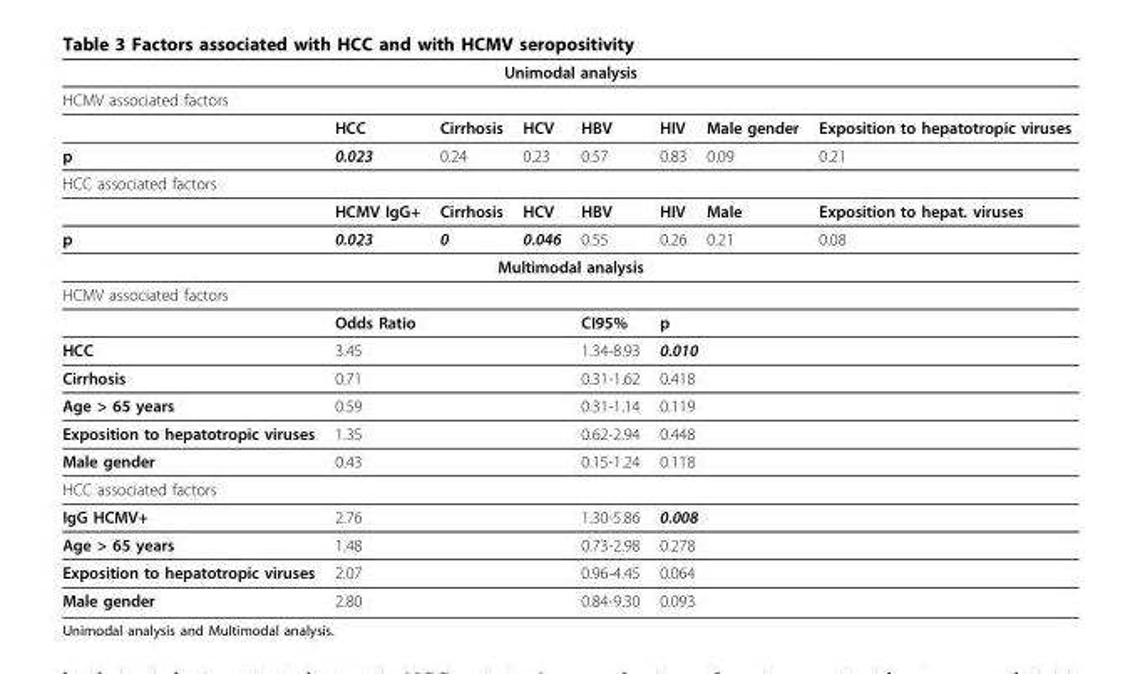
<table><thead><tr><td rowspan="2" colspan="8">Unimodal analysis HCMV associated factors</td></tr><tr></tr><tr><td></td><td>HCC</td><td>Cirrhosis</td><td>HCV</td><td>HBV</td><td>HIV</td><td>Male gender</td><td>Exposition to hepatotropic viruses</td></tr></thead><tbody><tr><td>p</td><td>0.023</td><td>0.24</td><td>0.23</td><td>0.57</td><td>0.83</td><td>0.09</td><td>0.21</td></tr><tr><td colspan="8">HCC associated factors</td></tr><tr><td></td><td>HCMV IgG+</td><td>Cirrhosis</td><td>HCV</td><td>HBV</td><td>HIV</td><td>Male</td><td>Exposition to hepat. viruses</td></tr><tr><td>p</td><td>0.023</td><td>0</td><td>0.046</td><td>0.55</td><td>0.26</td><td>0.21</td><td>0.08</td></tr><tr><td colspan="8">Multimodal analysis</td></tr><tr><td colspan="8">HCMV associated factors</td></tr><tr><td></td><td colspan="3">Odds Ratio</td><td>CI95%</td><td colspan="3">p</td></tr><tr><td>HCC</td><td colspan="3">3.45</td><td>1.34-8.93</td><td colspan="3">0.010</td></tr><tr><td>Cirrhosis</td><td colspan="3">0.71</td><td>0.31-1.62</td><td colspan="3">0.418</td></tr><tr><td>Age &gt; 65 years</td><td colspan="3">0.59</td><td>0.31-1.14</td><td colspan="3">0.119</td></tr><tr><td>Exposition to hepatotropic viruses</td><td colspan="3">1.35</td><td>0.62-2.94</td><td colspan="3">0.448</td></tr><tr><td>Male gender</td><td colspan="3">0.43</td><td>0.15-1.24</td><td colspan="3">0.118</td></tr><tr><td colspan="8">HCC associated factors</td></tr><tr><td>IgG HCMV+</td><td colspan="3">2.76</td><td>1.30-5.86</td><td colspan="3">0.008</td></tr><tr><td>Age &gt; 65 years</td><td colspan="3">1.48</td><td>0.73-2.98</td><td colspan="3">0.278</td></tr><tr><td>Exposition to hepatotropic viruses</td><td colspan="3">2.07</td><td>0.96-4.45</td><td colspan="3">0.064</td></tr><tr><td>Male gender</td><td colspan="3">2.80</td><td>0.84-9.30</td><td colspan="3">0.093</td></tr></tbody></table>